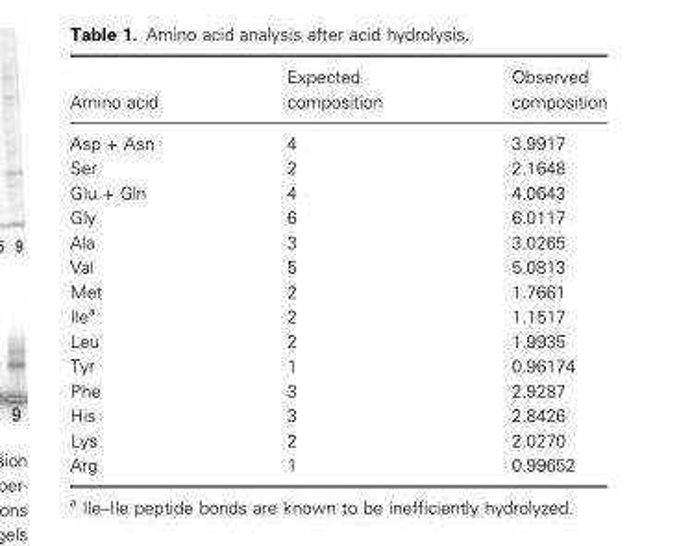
<table><thead><tr><td>Amino acid</td><td>Expected composition</td><td>Observed composition</td></tr></thead><tbody><tr><td>Asp + Asn</td><td>4</td><td>3.9917</td></tr><tr><td>Ser</td><td>2</td><td>2.1648</td></tr><tr><td>Glu + Gln</td><td>4</td><td>4.0643</td></tr><tr><td>Gly</td><td>6</td><td>6.0117</td></tr><tr><td>Ala</td><td>3</td><td>3.0265</td></tr><tr><td>Val</td><td>5</td><td>5.0813</td></tr><tr><td>Met</td><td>2</td><td>1.7661</td></tr><tr><td>Ile<sup>a</sup></td><td>2</td><td>1.1517</td></tr><tr><td>Leu</td><td>2</td><td>1.9935</td></tr><tr><td>Tyr</td><td>1</td><td>0.96174</td></tr><tr><td>Phe</td><td>3</td><td>2.9287</td></tr><tr><td>His</td><td>3</td><td>2.8426</td></tr><tr><td>Lys</td><td>2</td><td>2.0270</td></tr><tr><td>Arg</td><td>1</td><td>0.99652</td></tr></tbody></table>